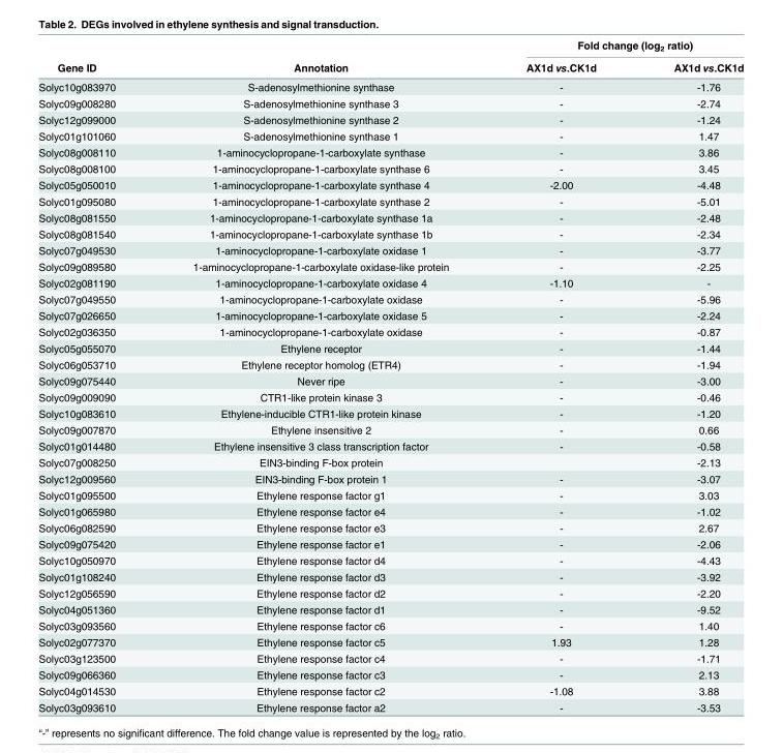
<table><thead><tr><td rowspan="2">Gene ID</td><td rowspan="2">Annotation</td><td colspan="2">Fold change (log<sub>2</sub> ratio)</td></tr><tr><td>AX1d vs.CK1d</td><td>AX1d vs.CK1d</td></tr></thead><tbody><tr><td>Solyc10g083970</td><td>S-adenosylmethionine synthase</td><td>-</td><td>-1.76</td></tr><tr><td>Solyc09g008280</td><td>S-adenosylmethionine synthase 3</td><td>-</td><td>-2.74</td></tr><tr><td>Solyc12g099000</td><td>S-adenosylmethionine synthase 2</td><td>-</td><td>-1.24</td></tr><tr><td>Solyc01g101060</td><td>S-adenosylmethionine synthase 1</td><td>-</td><td>1.47</td></tr><tr><td>Solyc08g008110</td><td>1-aminocyclopropane-1-carboxylate synthase</td><td>-</td><td>3.86</td></tr><tr><td>Solyc08g008100</td><td>1-aminocyclopropane-1-carboxylate synthase 6</td><td>-</td><td>3.45</td></tr><tr><td>Solyc05g050010</td><td>1-aminocyclopropane-1-carboxylate synthase 4</td><td>-2.00</td><td>-4.48</td></tr><tr><td>Solyc01g095080</td><td>1-aminocyclopropane-1-carboxylate synthase 2</td><td>-</td><td>-5.01</td></tr><tr><td>Solyc08g081550</td><td>1-aminocyclopropane-1-carboxylate synthase 1a</td><td>-</td><td>-2.48</td></tr><tr><td>Solyc08g081540</td><td>1-aminocyclopropane-1-carboxylate synthase 1b</td><td>-</td><td>-2.34</td></tr><tr><td>Solyc07g049530</td><td>1-aminocyclopropane-1-carboxylate oxidase 1</td><td>-</td><td>-3.77</td></tr><tr><td>Solyc09g089580</td><td>1-aminocyclopropane-1-carboxylate oxidase-like protein</td><td>-</td><td>-2.25</td></tr><tr><td>Solyc02g081190</td><td>1-aminocyclopropane-1-carboxylate oxidase 4</td><td>-1.10</td><td>-</td></tr><tr><td>Solyc07g049550</td><td>1-aminocyclopropane-1-carboxylate oxidase</td><td>-</td><td>-5.96</td></tr><tr><td>Solyc07g026650</td><td>1-aminocyclopropane-1-carboxylate oxidase 5</td><td>-</td><td>-2.24</td></tr><tr><td>Solyc02g036350</td><td>1-aminocyclopropane-1-carboxylate oxidase</td><td>-</td><td>-0.87</td></tr><tr><td>Solyc05g055070</td><td>Ethylene receptor</td><td>-</td><td>-1.44</td></tr><tr><td>Solyc06g053710</td><td>Ethylene receptor homolog (ETR4)</td><td>-</td><td>-1.94</td></tr><tr><td>Solyc09g075440</td><td>Never ripe</td><td>-</td><td>-3.00</td></tr><tr><td>Solyc09g009090</td><td>CTR1-like protein kinase 3</td><td>-</td><td>-0.46</td></tr><tr><td>Solyc10g083610</td><td>Ethylene-inducible CTR1-like protein kinase</td><td>-</td><td>-1.20</td></tr><tr><td>Solyc09g007870</td><td>Ethylene insensitive 2</td><td>-</td><td>0.66</td></tr><tr><td>Solyc01g014480</td><td>Ethylene insensitive 3 class transcription factor</td><td>-</td><td>-0.58</td></tr><tr><td>Solyc07g008250</td><td>EIN3-binding F-box protein</td><td></td><td>-2.13</td></tr><tr><td>Solyc12g009560</td><td>EIN3-binding F-box protein 1</td><td>-</td><td>-3.07</td></tr><tr><td>Solyc01g095500</td><td>Ethylene response factor g1</td><td>-</td><td>3.03</td></tr><tr><td>Solyc01g065980</td><td>Ethylene response factor e4</td><td>-</td><td>-1.02</td></tr><tr><td>Solyc06g082590</td><td>Ethylene response factor e3</td><td>-</td><td>2.67</td></tr><tr><td>Solyc09g075420</td><td>Ethylene response factor e1</td><td>-</td><td>-2.06</td></tr><tr><td>Solyc10g050970</td><td>Ethylene response factor d4</td><td>-</td><td>-4.43</td></tr><tr><td>Solyc01g108240</td><td>Ethylene response factor d3</td><td>-</td><td>-3.92</td></tr><tr><td>Solyc12g056590</td><td>Ethylene response factor d2</td><td>-</td><td>-2.20</td></tr><tr><td>Solyc04g051360</td><td>Ethylene response factor d1</td><td>-</td><td>-9.52</td></tr><tr><td>Solyc03g093560</td><td>Ethylene response factor c6</td><td>-</td><td>1.40</td></tr><tr><td>Solyc02g077370</td><td>Ethylene response factor c5</td><td>1.93</td><td>1.28</td></tr><tr><td>Solyc03g123500</td><td>Ethylene response factor c4</td><td>-</td><td>-1.71</td></tr><tr><td>Solyc09g066360</td><td>Ethylene response factor c3</td><td>-</td><td>2.13</td></tr><tr><td>Solyc04g014530</td><td>Ethylene response factor c2</td><td>-1.08</td><td>3.88</td></tr><tr><td>Solyc03g093610</td><td>Ethylene response factor a2</td><td>-</td><td>-3.53</td></tr></tbody></table>